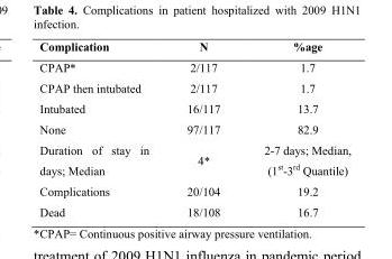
<table><thead><tr><td>Complication</td><td>N</td><td>%age</td></tr></thead><tbody><tr><td>CPAP*</td><td>2/117</td><td>1.7</td></tr><tr><td>CPAP then intubated</td><td>2/117</td><td>1.7</td></tr><tr><td>Intubated</td><td>16/117</td><td>13.7</td></tr><tr><td>None</td><td>97/117</td><td>82.9</td></tr><tr><td>Duration of stay in days; Median</td><td>4*</td><td>2-7 days; Median, (1<sup>st</sup>-3<sup>rd</sup> Quantile)</td></tr><tr><td>Complications</td><td>20/104</td><td>19.2</td></tr><tr><td>Dead</td><td>18/108</td><td>16.7</td></tr></tbody></table>